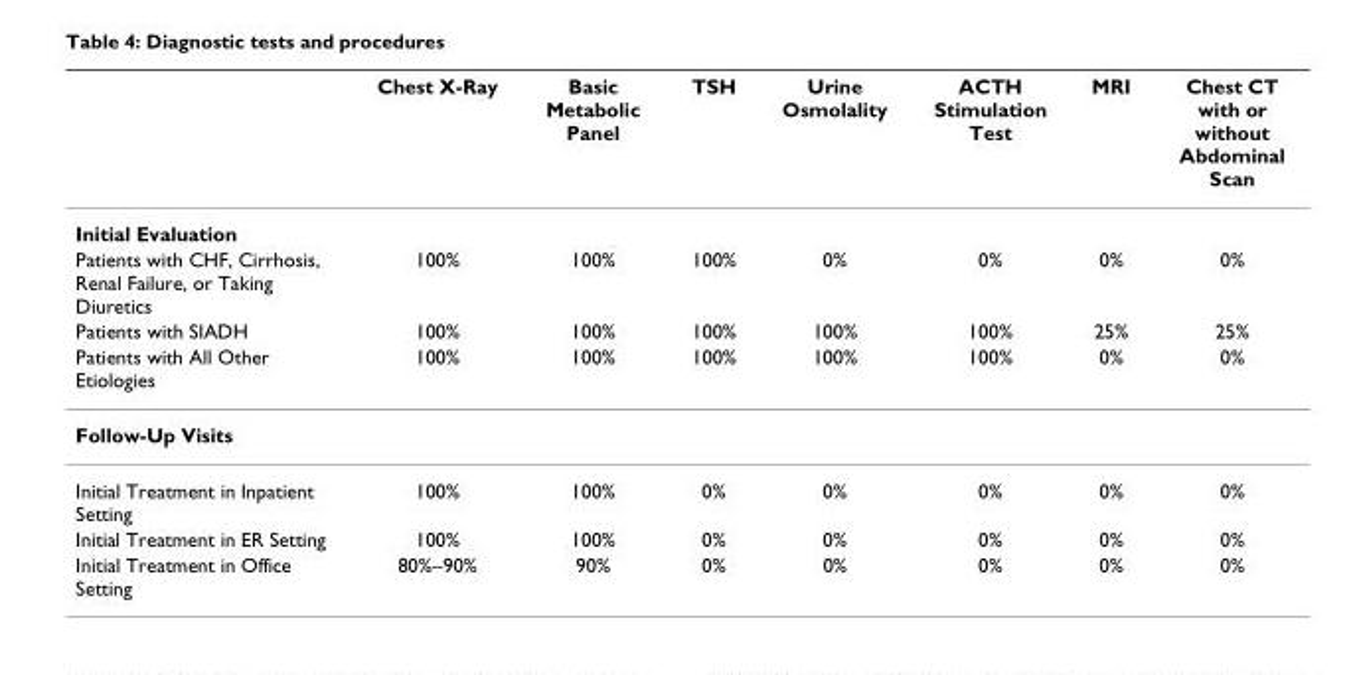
<table><thead><tr><td></td><td>Chest X-Ray</td><td>Basic Metabolic Panel</td><td>TSH</td><td>Urine Osmolality</td><td>ACTH Stimulation Test</td><td>MRI</td><td>Chest CT with or without Abdominal Scan</td></tr></thead><tbody><tr><td colspan="8">Initial Evaluation</td></tr><tr><td>Patients with CHF, Cirrhosis, Renal Failure, or Taking Diuretics</td><td>100%</td><td>100%</td><td>100%</td><td>0%</td><td>0%</td><td>0%</td><td>0%</td></tr><tr><td>Patients with SIADH</td><td>100%</td><td>100%</td><td>100%</td><td>100%</td><td>100%</td><td>25%</td><td>25%</td></tr><tr><td>Patients with All Other Etiologies</td><td>100%</td><td>100%</td><td>100%</td><td>100%</td><td>100%</td><td>0%</td><td>0%</td></tr><tr><td colspan="8">Follow-Up Visits</td></tr><tr><td>Initial Treatment in Inpatient Setting</td><td>100%</td><td>100%</td><td>0%</td><td>0%</td><td>0%</td><td>0%</td><td>0%</td></tr><tr><td>Initial Treatment in ER Setting</td><td>100%</td><td>100%</td><td>0%</td><td>0%</td><td>0%</td><td>0%</td><td>0%</td></tr><tr><td>Initial Treatment in Office Setting</td><td>80%–90%</td><td>90%</td><td>0%</td><td>0%</td><td>0%</td><td>0%</td><td>0%</td></tr></tbody></table>